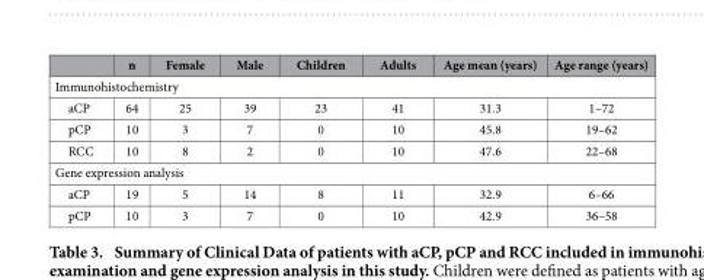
<table><thead><tr><td></td><td>n</td><td>Female</td><td>Male</td><td>Children</td><td>Adults</td><td>Age mean (years)</td><td>Age range (years)</td></tr></thead><tbody><tr><td colspan="8">Immunohistochemistry</td></tr><tr><td>aCP</td><td>64</td><td>25</td><td>39</td><td>23</td><td>41</td><td>31.3</td><td>1–72</td></tr><tr><td>pCP</td><td>10</td><td>3</td><td>7</td><td>0</td><td>10</td><td>45.8</td><td>19–62</td></tr><tr><td>RCC</td><td>10</td><td>8</td><td>2</td><td>0</td><td>10</td><td>47.6</td><td>22–68</td></tr><tr><td colspan="8">Gene expression analysis</td></tr><tr><td>aCP</td><td>19</td><td>5</td><td>14</td><td>8</td><td>11</td><td>32.9</td><td>6–66</td></tr><tr><td>pCP</td><td>10</td><td>3</td><td>7</td><td>0</td><td>10</td><td>42.9</td><td>36–58</td></tr></tbody></table>